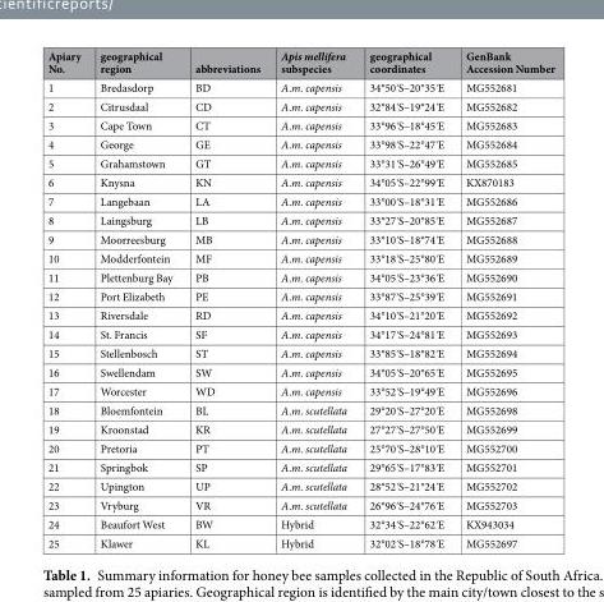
<table><thead><tr><td>Apiary No.</td><td>geographical region</td><td>abbreviations</td><td>Apis mellifera subspecies</td><td>geographical coordinates</td><td>GenBank Accession Number</td></tr></thead><tbody><tr><td>1</td><td>Bredasdorp</td><td>BD</td><td>A.m. capensis</td><td>34°50ʹS–20°35ʹE</td><td>MG552681</td></tr><tr><td>2</td><td>Citrusdaal</td><td>CD</td><td>A.m. capensis</td><td>32°84ʹS–19°24ʹE</td><td>MG552682</td></tr><tr><td>3</td><td>Cape Town</td><td>CT</td><td>A.m. capensis</td><td>33°96ʹS–18°45ʹE</td><td>MG552683</td></tr><tr><td>4</td><td>George</td><td>GE</td><td>A.m. capensis</td><td>33°98ʹS–22°47ʹE</td><td>MG552684</td></tr><tr><td>5</td><td>Grahamstown</td><td>GT</td><td>A.m. capensis</td><td>33°31ʹS–26°49ʹE</td><td>MG552685</td></tr><tr><td>6</td><td>Knysna</td><td>KN</td><td>A.m. capensis</td><td>34°05ʹS–22°99ʹE</td><td>KX870183</td></tr><tr><td>7</td><td>Langebaan</td><td>LA</td><td>A.m. capensis</td><td>33°00ʹS–18°31ʹE</td><td>MG552686</td></tr><tr><td>8</td><td>Laingsburg</td><td>LB</td><td>A.m. capensis</td><td>33°27ʹS–20°85ʹE</td><td>MG552687</td></tr><tr><td>9</td><td>Moorreesburg</td><td>MB</td><td>A.m. capensis</td><td>33°10ʹS–18°74ʹE</td><td>MG552688</td></tr><tr><td>10</td><td>Modderfontein</td><td>MF</td><td>A.m. capensis</td><td>33°18ʹS–25°80ʹE</td><td>MG552689</td></tr><tr><td>11</td><td>Plettenburg Bay</td><td>PB</td><td>A.m. capensis</td><td>34°05ʹS–23°36ʹE</td><td>MG552690</td></tr><tr><td>12</td><td>Port Elizabeth</td><td>PE</td><td>A.m. capensis</td><td>33°87ʹS–25°39ʹE</td><td>MG552691</td></tr><tr><td>13</td><td>Riversdale</td><td>RD</td><td>A.m. capensis</td><td>34°10ʹS–21°20ʹE</td><td>MG552692</td></tr><tr><td>14</td><td>St. Francis</td><td>SF</td><td>A.m. capensis</td><td>34°17ʹS–24°81ʹE</td><td>MG552693</td></tr><tr><td>15</td><td>Stellenbosch</td><td>ST</td><td>A.m. capensis</td><td>33°85ʹS–18°82ʹE</td><td>MG552694</td></tr><tr><td>16</td><td>Swellendam</td><td>SW</td><td>A.m. capensis</td><td>34°05ʹS–20°65ʹE</td><td>MG552695</td></tr><tr><td>17</td><td>Worcester</td><td>WD</td><td>A.m. capensis</td><td>33°52ʹS–19°49ʹE</td><td>MG552696</td></tr><tr><td>18</td><td>Bloemfontein</td><td>BL</td><td>A.m. scutellata</td><td>29°20ʹS–27°20ʹE</td><td>MG552698</td></tr><tr><td>19</td><td>Kroonstad</td><td>KR</td><td>A.m. scutellata</td><td>27°27ʹS–27°50ʹE</td><td>MG552699</td></tr><tr><td>20</td><td>Pretoria</td><td>PT</td><td>A.m. scutellata</td><td>25°70ʹS–28°10ʹE</td><td>MG552700</td></tr><tr><td>21</td><td>Springbok</td><td>SP</td><td>A.m. scutellata</td><td>29°65ʹS–17°83ʹE</td><td>MG552701</td></tr><tr><td>22</td><td>Upington</td><td>UP</td><td>A.m. scutellata</td><td>28°52ʹS–21°24ʹE</td><td>MG552702</td></tr><tr><td>23</td><td>Vryburg</td><td>VR</td><td>A.m. scutellata</td><td>26°96ʹS–24°76ʹE</td><td>MG552703</td></tr><tr><td>24</td><td>Beaufort West</td><td>BW</td><td>Hybrid</td><td>32°34ʹS–22°62ʹE</td><td>KX943034</td></tr><tr><td>25</td><td>Klawer</td><td>KL</td><td>Hybrid</td><td>32°02ʹS–18°78ʹE</td><td>MG552697</td></tr></tbody></table>